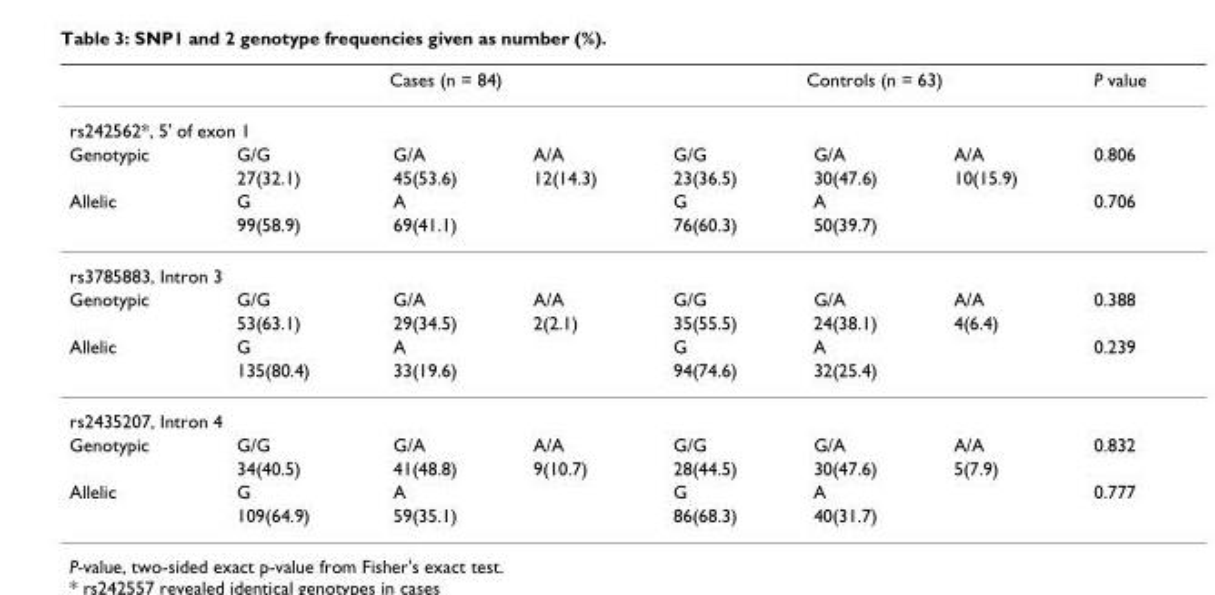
<table><thead><tr><td></td><td colspan="3">Cases (n = 84)</td><td colspan="3">Controls (n = 63)</td><td>P value</td></tr><tr><td colspan="8">rs242562*, 5&#x27; of exon 1</td></tr><tr><td>Genotypic</td><td>G/G</td><td>G/A</td><td>A/A</td><td>G/G</td><td>G/A</td><td>A/A</td><td>0.806</td></tr></thead><tbody><tr><td></td><td>27(32.1)</td><td>45(53.6)</td><td>12(14.3)</td><td>23(36.5)</td><td>30(47.6)</td><td>10(15.9)</td><td></td></tr><tr><td rowspan="2">Allelic</td><td>G</td><td>A</td><td></td><td>G</td><td>A</td><td></td><td>0.706</td></tr><tr><td>99(58.9)</td><td>69(41.1)</td><td></td><td>76(60.3)</td><td>50(39.7)</td><td></td><td></td></tr><tr><td colspan="8">rs3785883, Intron 3</td></tr><tr><td rowspan="2">Genotypic</td><td>G/G</td><td>G/A</td><td>A/A</td><td>G/G</td><td>G/A</td><td>A/A</td><td>0.388</td></tr><tr><td>53(63.1)</td><td>29(34.5)</td><td>2(2.1)</td><td>35(55.5)</td><td>24(38.1)</td><td>4(6.4)</td><td></td></tr><tr><td rowspan="2">Allelic</td><td>G</td><td>A</td><td></td><td>G</td><td>A</td><td></td><td>0.239</td></tr><tr><td>135(80.4)</td><td>33(19.6)</td><td></td><td>94(74.6)</td><td>32(25.4)</td><td></td><td></td></tr><tr><td colspan="8">rs2435207, Intron 4</td></tr><tr><td rowspan="2">Genotypic</td><td>G/G</td><td>G/A</td><td>A/A</td><td>G/G</td><td>G/A</td><td>A/A</td><td>0.832</td></tr><tr><td>34(40.5)</td><td>41(48.8)</td><td>9(10.7)</td><td>28(44.5)</td><td>30(47.6)</td><td>5(7.9)</td><td></td></tr><tr><td rowspan="2">Allelic</td><td>G</td><td>A</td><td></td><td>G</td><td>A</td><td></td><td>0.777</td></tr><tr><td>109(64.9)</td><td>59(35.1)</td><td></td><td>86(68.3)</td><td>40(31.7)</td><td></td><td></td></tr></tbody></table>